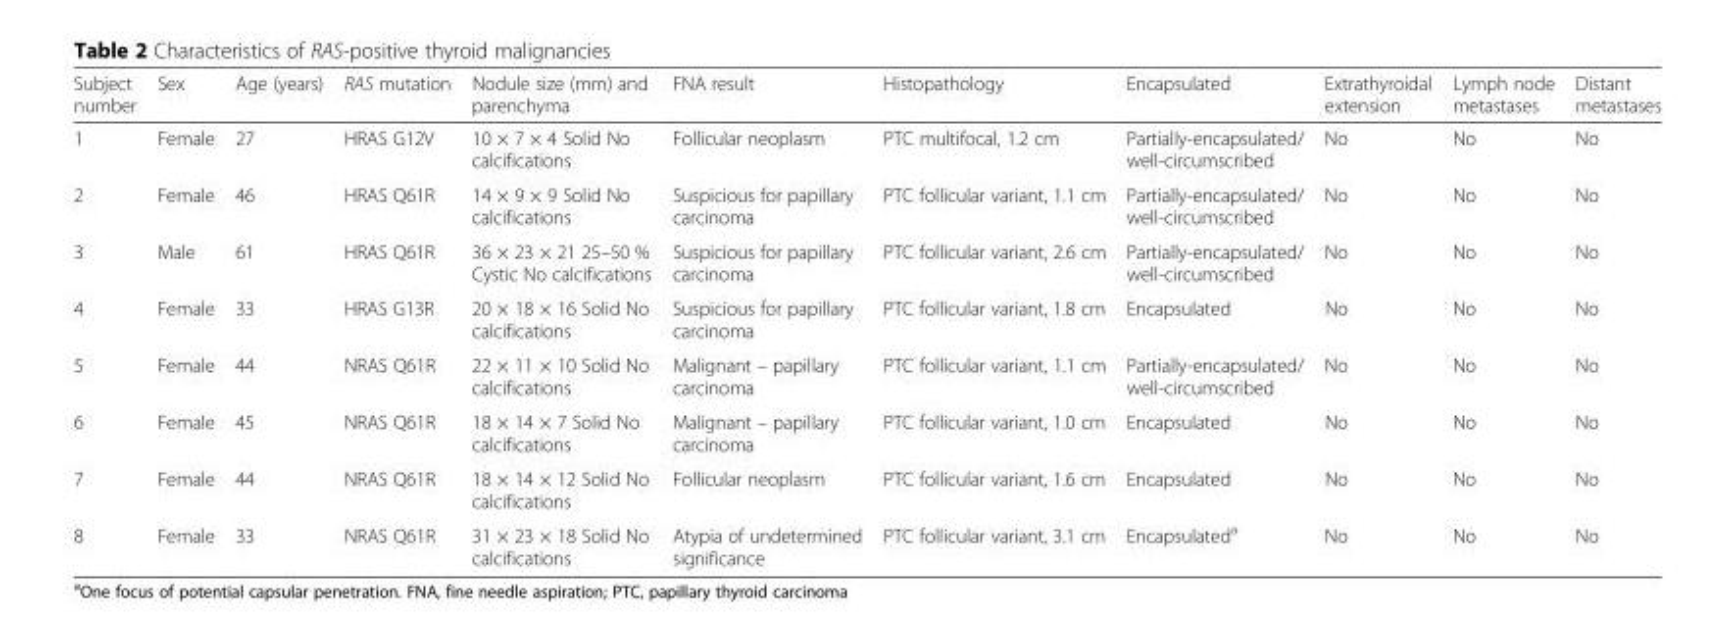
<table><thead><tr><td>Subject number</td><td>Sex</td><td>Age (years)</td><td>RAS mutation</td><td>Nodule size (mm) and parenchyma</td><td>FNA result</td><td>Histopathology</td><td>Encapsulated</td><td>Extrathyroidal extension</td><td>Lymph node metastases</td><td>Distant metastases</td></tr></thead><tbody><tr><td>1</td><td>Female</td><td>27</td><td>HRAS G12V</td><td>10 × 7 × 4 Solid No calcifications</td><td>Follicular neoplasm</td><td>PTC multifocal, 1.2 cm</td><td>Partially-encapsulated/ well-circumscribed</td><td>No</td><td>No</td><td>No</td></tr><tr><td>2</td><td>Female</td><td>46</td><td>HRAS Q61R</td><td>14 × 9 × 9 Solid No calcifications</td><td>Suspicious for papillary carcinoma</td><td>PTC follicular variant, 1.1 cm</td><td>Partially-encapsulated/ well-circumscribed</td><td>No</td><td>No</td><td>No</td></tr><tr><td>3</td><td>Male</td><td>61</td><td>HRAS Q61R</td><td>36 × 23 × 21 25–50 % Cystic No calcifications</td><td>Suspicious for papillary carcinoma</td><td>PTC follicular variant, 2.6 cm</td><td>Partially-encapsulated/ well-circumscribed</td><td>No</td><td>No</td><td>No</td></tr><tr><td>4</td><td>Female</td><td>33</td><td>HRAS G13R</td><td>20 × 18 × 16 Solid No calcifications</td><td>Suspicious for papillary carcinoma</td><td>PTC follicular variant, 1.8 cm</td><td>Encapsulated</td><td>No</td><td>No</td><td>No</td></tr><tr><td>5</td><td>Female</td><td>44</td><td>NRAS Q61R</td><td>22 × 11 × 10 Solid No calcifications</td><td>Malignant – papillary carcinoma</td><td>PTC follicular variant, 1.1 cm</td><td>Partially-encapsulated/ well-circumscribed</td><td>No</td><td>No</td><td>No</td></tr><tr><td>6</td><td>Female</td><td>45</td><td>NRAS Q61R</td><td>18 × 14 × 7 Solid No calcifications</td><td>Malignant – papillary carcinoma</td><td>PTC follicular variant, 1.0 cm</td><td>Encapsulated</td><td>No</td><td>No</td><td>No</td></tr><tr><td>7</td><td>Female</td><td>44</td><td>NRAS Q61R</td><td>18 × 14 × 12 Solid No calcifications</td><td>Follicular neoplasm</td><td>PTC follicular variant, 1.6 cm</td><td>Encapsulated</td><td>No</td><td>No</td><td>No</td></tr><tr><td>8</td><td>Female</td><td>33</td><td>NRAS Q61R</td><td>31 × 23 × 18 Solid No calcifications</td><td>Atypia of undetermined significance</td><td>PTC follicular variant, 3.1 cm</td><td>Encapsulated<sup>a</sup></td><td>No</td><td>No</td><td>No</td></tr></tbody></table>